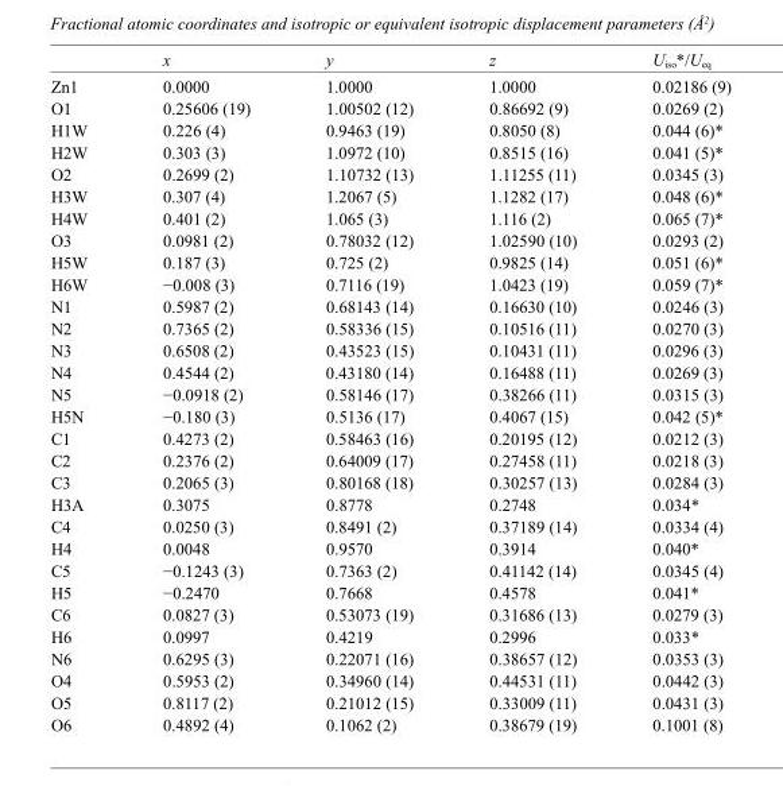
<table><thead><tr><td></td><td>x</td><td>y</td><td>z</td><td>U<sub>iso</sub>*/U<sub>eq</sub></td></tr></thead><tbody><tr><td>Zn1</td><td>0.0000</td><td>1.0000</td><td>1.0000</td><td>0.02186 (9)</td></tr><tr><td>O1</td><td>0.25606 (19)</td><td>1.00502 (12)</td><td>0.86692 (9)</td><td>0.0269 (2)</td></tr><tr><td>H1W</td><td>0.226 (4)</td><td>0.9463 (19)</td><td>0.8050 (8)</td><td>0.044 (6)*</td></tr><tr><td>H2W</td><td>0.303 (3)</td><td>1.0972 (10)</td><td>0.8515 (16)</td><td>0.041 (5)*</td></tr><tr><td>O2</td><td>0.2699 (2)</td><td>1.10732 (13)</td><td>1.11255 (11)</td><td>0.0345 (3)</td></tr><tr><td>H3W</td><td>0.307 (4)</td><td>1.2067 (5)</td><td>1.1282 (17)</td><td>0.048 (6)*</td></tr><tr><td>H4W</td><td>0.401 (2)</td><td>1.065 (3)</td><td>1.116 (2)</td><td>0.065 (7)*</td></tr><tr><td>O3</td><td>0.0981 (2)</td><td>0.78032 (12)</td><td>1.02590 (10)</td><td>0.0293 (2)</td></tr><tr><td>H5W</td><td>0.187 (3)</td><td>0.725 (2)</td><td>0.9825 (14)</td><td>0.051 (6)*</td></tr><tr><td>H6W</td><td>−0.008 (3)</td><td>0.7116 (19)</td><td>1.0423 (19)</td><td>0.059 (7)*</td></tr><tr><td>N1</td><td>0.5987 (2)</td><td>0.68143 (14)</td><td>0.16630 (10)</td><td>0.0246 (3)</td></tr><tr><td>N2</td><td>0.7365 (2)</td><td>0.58336 (15)</td><td>0.10516 (11)</td><td>0.0270 (3)</td></tr><tr><td>N3</td><td>0.6508 (2)</td><td>0.43523 (15)</td><td>0.10431 (11)</td><td>0.0296 (3)</td></tr><tr><td>N4</td><td>0.4544 (2)</td><td>0.43180 (14)</td><td>0.16488 (11)</td><td>0.0269 (3)</td></tr><tr><td>N5</td><td>−0.0918 (2)</td><td>0.58146 (17)</td><td>0.38266 (11)</td><td>0.0315 (3)</td></tr><tr><td>H5N</td><td>−0.180 (3)</td><td>0.5136 (17)</td><td>0.4067 (15)</td><td>0.042 (5)*</td></tr><tr><td>C1</td><td>0.4273 (2)</td><td>0.58463 (16)</td><td>0.20195 (12)</td><td>0.0212 (3)</td></tr><tr><td>C2</td><td>0.2376 (2)</td><td>0.64009 (17)</td><td>0.27458 (11)</td><td>0.0218 (3)</td></tr><tr><td>C3</td><td>0.2065 (3)</td><td>0.80168 (18)</td><td>0.30257 (13)</td><td>0.0284 (3)</td></tr><tr><td>H3A</td><td>0.3075</td><td>0.8778</td><td>0.2748</td><td>0.034*</td></tr><tr><td>C4</td><td>0.0250 (3)</td><td>0.8491 (2)</td><td>0.37189 (14)</td><td>0.0334 (4)</td></tr><tr><td>H4</td><td>0.0048</td><td>0.9570</td><td>0.3914</td><td>0.040*</td></tr><tr><td>C5</td><td>−0.1243 (3)</td><td>0.7363 (2)</td><td>0.41142 (14)</td><td>0.0345 (4)</td></tr><tr><td>H5</td><td>−0.2470</td><td>0.7668</td><td>0.4578</td><td>0.041*</td></tr><tr><td>C6</td><td>0.0827 (3)</td><td>0.53073 (19)</td><td>0.31686 (13)</td><td>0.0279 (3)</td></tr><tr><td>H6</td><td>0.0997</td><td>0.4219</td><td>0.2996</td><td>0.033*</td></tr><tr><td>N6</td><td>0.6295 (3)</td><td>0.22071 (16)</td><td>0.38657 (12)</td><td>0.0353 (3)</td></tr><tr><td>O4</td><td>0.5953 (2)</td><td>0.34960 (14)</td><td>0.44531 (11)</td><td>0.0442 (3)</td></tr><tr><td>O5</td><td>0.8117 (2)</td><td>0.21012 (15)</td><td>0.33009 (11)</td><td>0.0431 (3)</td></tr><tr><td>O6</td><td>0.4892 (4)</td><td>0.1062 (2)</td><td>0.38679 (19)</td><td>0.1001 (8)</td></tr></tbody></table>